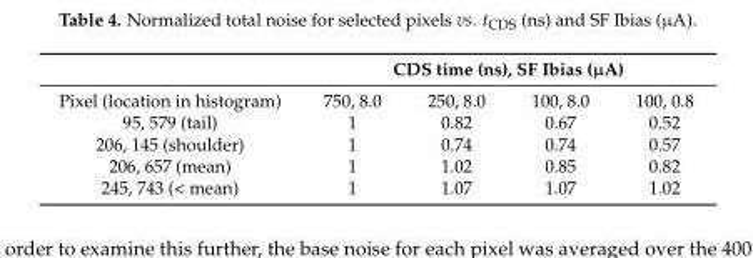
<table><thead><tr><td rowspan="2">Pixel (location in histogram)</td><td colspan="4">CDS time (ns), SF Ibias (µA)</td></tr><tr><td>750, 8.0</td><td>250, 8.0</td><td>100, 8.0</td><td>100, 0.8</td></tr></thead><tbody><tr><td>95, 579 (tail)</td><td>1</td><td>0.82</td><td>0.67</td><td>0.52</td></tr><tr><td>206, 145 (shoulder)</td><td>1</td><td>0.74</td><td>0.74</td><td>0.57</td></tr><tr><td>206, 657 (mean)</td><td>1</td><td>1.02</td><td>0.85</td><td>0.82</td></tr><tr><td>245, 743 (&lt; mean)</td><td>1</td><td>1.07</td><td>1.07</td><td>1.02</td></tr></tbody></table>